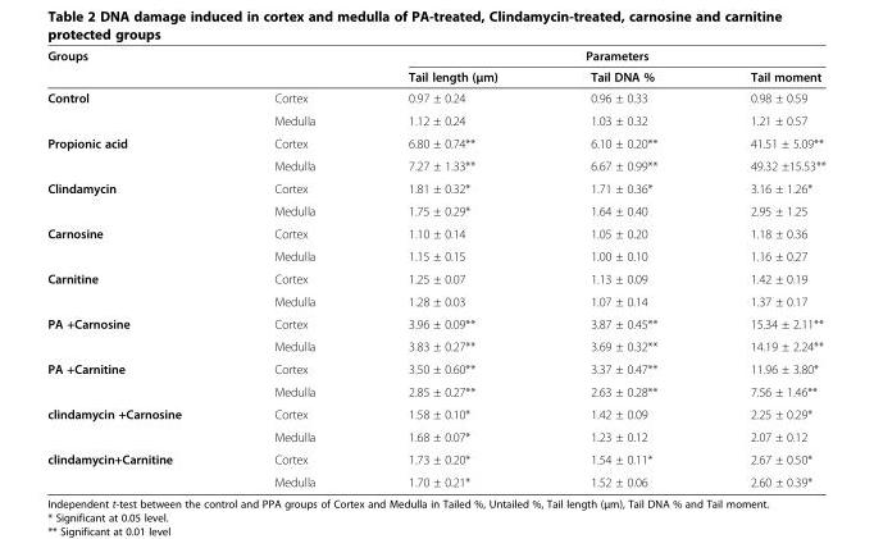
<table><thead><tr><td colspan="2">Groups</td><td colspan="3">Parameters</td></tr><tr><td></td><td></td><td>Tail length (μm)</td><td>Tail DNA %</td><td>Tail moment</td></tr></thead><tbody><tr><td rowspan="2">Control</td><td>Cortex</td><td>0.97 ± 0.24</td><td>0.96 ± 0.33</td><td>0.98 ± 0.59</td></tr><tr><td>Medulla</td><td>1.12 ± 0.24</td><td>1.03 ± 0.32</td><td>1.21 ± 0.57</td></tr><tr><td rowspan="2">Propionic acid</td><td>Cortex</td><td>6.80 ± 0.74**</td><td>6.10 ± 0.20**</td><td>41.51 ± 5.09**</td></tr><tr><td>Medulla</td><td>7.27 ± 1.33**</td><td>6.67 ± 0.99**</td><td>49.32 ±15.53**</td></tr><tr><td rowspan="2">Clindamycin</td><td>Cortex</td><td>1.81 ± 0.32*</td><td>1.71 ± 0.36*</td><td>3.16 ± 1.26*</td></tr><tr><td>Medulla</td><td>1.75 ± 0.29*</td><td>1.64 ± 0.40</td><td>2.95 ± 1.25</td></tr><tr><td rowspan="2">Carnosine</td><td>Cortex</td><td>1.10 ± 0.14</td><td>1.05 ± 0.20</td><td>1.18 ± 0.36</td></tr><tr><td>Medulla</td><td>1.15 ± 0.15</td><td>1.00 ± 0.10</td><td>1.16 ± 0.27</td></tr><tr><td rowspan="2">Carnitine</td><td>Cortex</td><td>1.25 ± 0.07</td><td>1.13 ± 0.09</td><td>1.42 ± 0.19</td></tr><tr><td>Medulla</td><td>1.28 ± 0.03</td><td>1.07 ± 0.14</td><td>1.37 ± 0.17</td></tr><tr><td rowspan="2">PA +Carnosine</td><td>Cortex</td><td>3.96 ± 0.09**</td><td>3.87 ± 0.45**</td><td>15.34 ± 2.11**</td></tr><tr><td>Medulla</td><td>3.83 ± 0.27**</td><td>3.69 ± 0.32**</td><td>14.19 ± 2.24**</td></tr><tr><td rowspan="2">PA +Carnitine</td><td>Cortex</td><td>3.50 ± 0.60**</td><td>3.37 ± 0.47**</td><td>11.96 ± 3.80*</td></tr><tr><td>Medulla</td><td>2.85 ± 0.27**</td><td>2.63 ± 0.28**</td><td>7.56 ± 1.46**</td></tr><tr><td rowspan="2">clindamycin +Carnosine</td><td>Cortex</td><td>1.58 ± 0.10*</td><td>1.42 ± 0.09</td><td>2.25 ± 0.29*</td></tr><tr><td>Medulla</td><td>1.68 ± 0.07*</td><td>1.23 ± 0.12</td><td>2.07 ± 0.12</td></tr><tr><td rowspan="2">clindamycin+Carnitine</td><td>Cortex</td><td>1.73 ± 0.20*</td><td>1.54 ± 0.11*</td><td>2.67 ± 0.50*</td></tr><tr><td>Medulla</td><td>1.70 ± 0.21*</td><td>1.52 ± 0.06</td><td>2.60 ± 0.39*</td></tr></tbody></table>